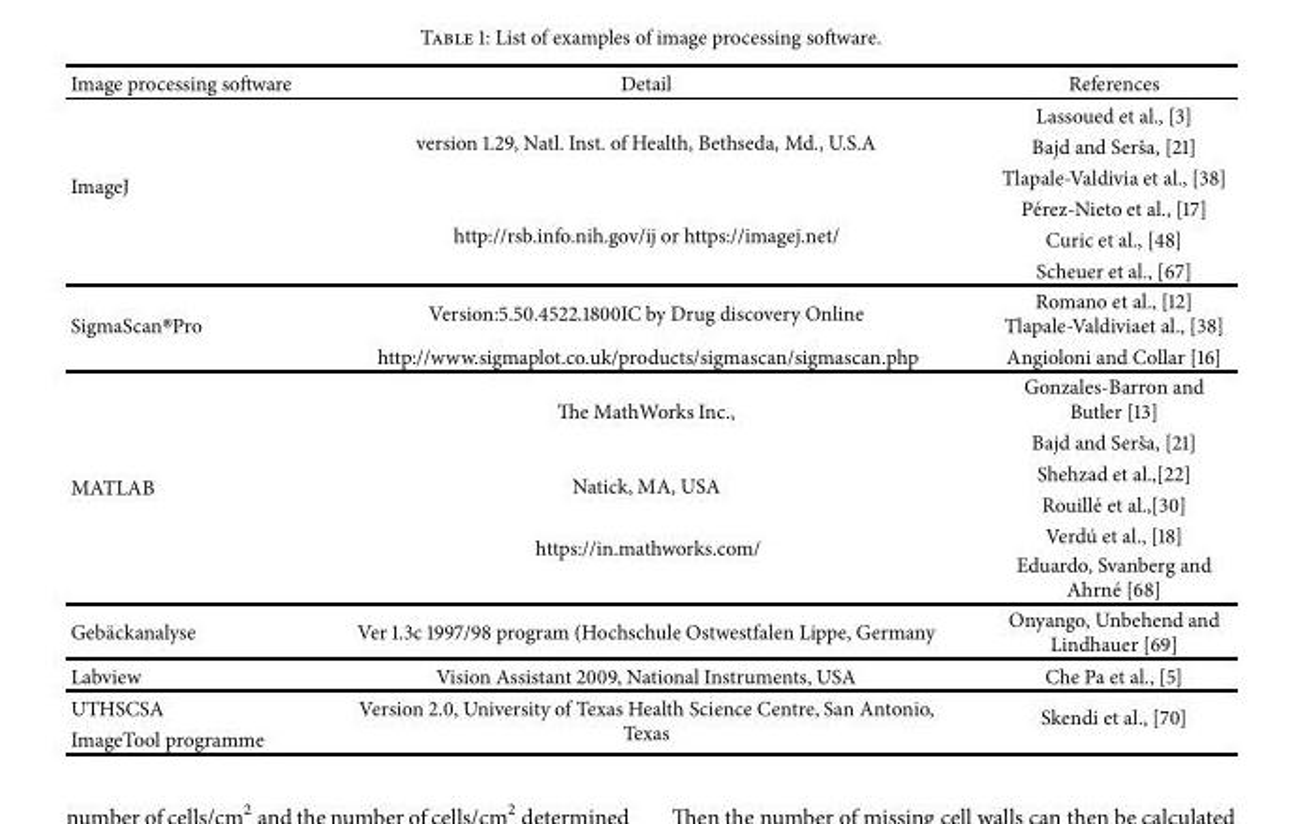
<table><thead><tr><td>Image processing software</td><td>Detail</td><td>References</td></tr></thead><tbody><tr><td rowspan="6">ImageJ</td><td rowspan="3">version 1.29, Natl. Inst. of Health, Bethseda, Md., U.S.A</td><td>Lassoued et al., [3]</td></tr><tr><td>Bajd and Serˇsa, [21]</td></tr><tr><td>Tlapale-Valdivia et al., [38]</td></tr><tr><td rowspan="3">http://rsb.info.nih.gov/ij or https://imagej.net/</td><td>P´erez-Nieto et al., [17]</td></tr><tr><td>Curic et al., [48]</td></tr><tr><td>Scheuer et al., [67]</td></tr><tr><td rowspan="2">SigmaScan®Pro</td><td>Version:5.50.4522.1800IC by Drug discovery Online</td><td>Romano et al., [12] Tlapale-Valdiviaet al., [38]</td></tr><tr><td>http://www.sigmaplot.co.uk/products/sigmascan/sigmascan.php</td><td>Angioloni and Collar [16]</td></tr><tr><td rowspan="6">MATLAB</td><td rowspan="2">The MathWorks Inc.,</td><td>Gonzales-Barron and Butler [13]</td></tr><tr><td>Bajd and Serˇsa, [21]</td></tr><tr><td rowspan="2">Natick, MA, USA</td><td>Shehzad et al.,[22]</td></tr><tr><td>Rouill´e et al.,[30]</td></tr><tr><td rowspan="2">https://in.mathworks.com/</td><td>Verd´u et al., [18]</td></tr><tr><td>Eduardo, Svanberg and Ahrn´e [68]</td></tr><tr><td>Geb¨ackanalyse</td><td>Ver 1.3c 1997/98 program (Hochschule Ostwestfalen Lippe, Germany</td><td>Onyango, Unbehend and Lindhauer [69]</td></tr><tr><td>Labview</td><td>Vision Assistant 2009, National Instruments, USA</td><td>Che Pa et al., [5]</td></tr><tr><td>UTHSCSA</td><td rowspan="2">Version 2.0, University of Texas Health Science Centre, San Antonio, Texas</td><td rowspan="2">Skendi et al., [70]</td></tr><tr><td>ImageTool programme</td></tr></tbody></table>